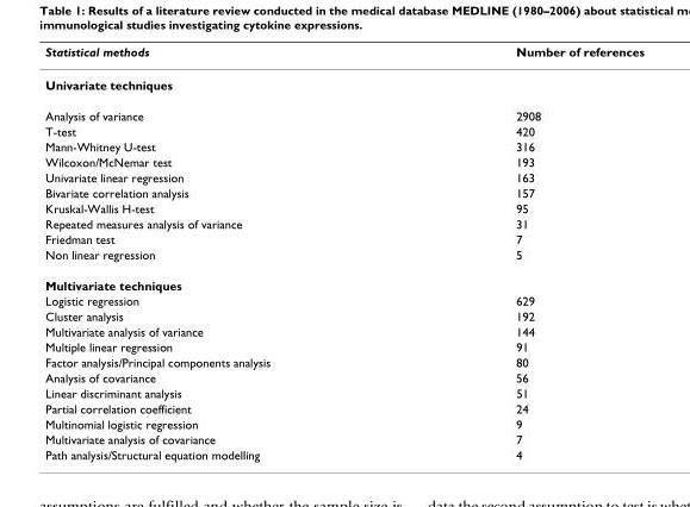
<table><thead><tr><td>Statistical methods</td><td>Number of references</td></tr></thead><tbody><tr><td colspan="2">Univariate techniques</td></tr><tr><td>Analysis of variance</td><td>2908</td></tr><tr><td>T-test</td><td>420</td></tr><tr><td>Mann-Whitney U-test</td><td>316</td></tr><tr><td>Wilcoxon/McNemar test</td><td>193</td></tr><tr><td>Univariate linear regression</td><td>163</td></tr><tr><td>Bivariate correlation analysis</td><td>157</td></tr><tr><td>Kruskal-Wallis H-test</td><td>95</td></tr><tr><td>Repeated measures analysis of variance</td><td>31</td></tr><tr><td>Friedman test</td><td>7</td></tr><tr><td>Non linear regression</td><td>5</td></tr><tr><td colspan="2">Multivariate techniques</td></tr><tr><td>Logistic regression</td><td>629</td></tr><tr><td>Cluster analysis</td><td>192</td></tr><tr><td>Multivariate analysis of variance</td><td>144</td></tr><tr><td>Multiple linear regression</td><td>91</td></tr><tr><td>Factor analysis/Principal components analysis</td><td>80</td></tr><tr><td>Analysis of covariance</td><td>56</td></tr><tr><td>Linear discriminant analysis</td><td>51</td></tr><tr><td>Partial correlation coefficient</td><td>24</td></tr><tr><td>Multinomial logistic regression</td><td>9</td></tr><tr><td>Multivariate analysis of covariance</td><td>7</td></tr><tr><td>Path analysis/Structural equation modelling</td><td>4</td></tr></tbody></table>